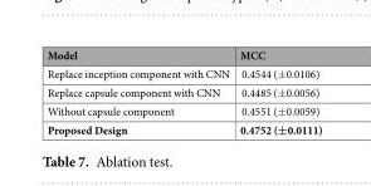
<table><thead><tr><td>Model</td><td>MCC</td></tr></thead><tbody><tr><td>Replace inception component with CNN</td><td>0.4544 (±0.0106)</td></tr><tr><td>Replace capsule component with CNN</td><td>0.4485 (±0.0056)</td></tr><tr><td>Without capsule component</td><td>0.4551 (±0.0059)</td></tr><tr><td>Proposed Design</td><td>0.4752 (±0.0111)</td></tr></tbody></table>